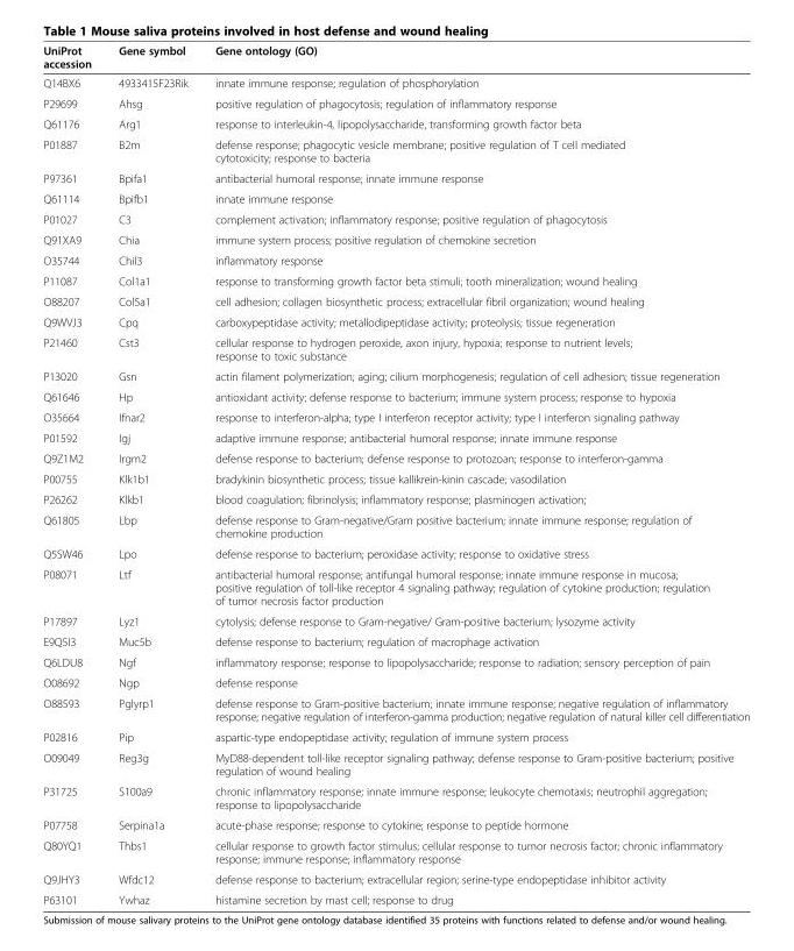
<table><thead><tr><td>UniProt accession</td><td>Gene symbol</td><td>Gene ontology (GO)</td></tr></thead><tbody><tr><td>Q14BX6</td><td>4933415F23Rik</td><td>innate immune response; regulation of phosphorylation</td></tr><tr><td>P29699</td><td>Ahsg</td><td>positive regulation of phagocytosis; regulation of inflammatory response</td></tr><tr><td>Q61176</td><td>Arg1</td><td>response to interleukin-4, lipopolysaccharide, transforming growth factor beta</td></tr><tr><td>P01887</td><td>B2m</td><td>defense response; phagocytic vesicle membrane; positive regulation of T cell mediated cytotoxicity; response to bacteria</td></tr><tr><td>P97361</td><td>Bpifa1</td><td>antibacterial humoral response; innate immune response</td></tr><tr><td>Q61114</td><td>Bpifb1</td><td>innate immune response</td></tr><tr><td>P01027</td><td>C3</td><td>complement activation; inflammatory response; positive regulation of phagocytosis</td></tr><tr><td>Q91XA9</td><td>Chia</td><td>immune system process; positive regulation of chemokine secretion</td></tr><tr><td>O35744</td><td>Chil3</td><td>inflammatory response</td></tr><tr><td>P11087</td><td>Col1a1</td><td>response to transforming growth factor beta stimuli; tooth mineralization; wound healing</td></tr><tr><td>O88207</td><td>Col5a1</td><td>cell adhesion; collagen biosynthetic process; extracellular fibril organization; wound healing</td></tr><tr><td>Q9WVJ3</td><td>Cpq</td><td>carboxypeptidase activity; metallodipeptidase activity; proteolysis; tissue regeneration</td></tr><tr><td>P21460</td><td>Cst3</td><td>cellular response to hydrogen peroxide, axon injury, hypoxia; response to nutrient levels; response to toxic substance</td></tr><tr><td>P13020</td><td>Gsn</td><td>actin filament polymerization; aging; cilium morphogenesis; regulation of cell adhesion; tissue regeneration</td></tr><tr><td>Q61646</td><td>Hp</td><td>antioxidant activity; defense response to bacterium; immune system process; response to hypoxia</td></tr><tr><td>O35664</td><td>Ifnar2</td><td>response to interferon-alpha; type I interferon receptor activity; type I interferon signaling pathway</td></tr><tr><td>P01592</td><td>Igj</td><td>adaptive immune response; antibacterial humoral response; innate immune response</td></tr><tr><td>Q9Z1M2</td><td>Irgm2</td><td>defense response to bacterium; defense response to protozoan; response to interferon-gamma</td></tr><tr><td>P00755</td><td>Klk1b1</td><td>bradykinin biosynthetic process; tissue kallikrein-kinin cascade; vasodilation</td></tr><tr><td>P26262</td><td>Klkb1</td><td>blood coagulation; fibrinolysis; inflammatory response; plasminogen activation;</td></tr><tr><td>Q61805</td><td>Lbp</td><td>defense response to Gram-negative/Gram positive bacterium; innate immune response; regulation of chemokine production</td></tr><tr><td>Q5SW46</td><td>Lpo</td><td>defense response to bacterium; peroxidase activity; response to oxidative stress</td></tr><tr><td>P08071</td><td>Ltf</td><td>antibacterial humoral response; antifungal humoral response; innate immune response in mucosa; positive regulation of toll-like receptor 4 signaling pathway; regulation of cytokine production; regulation of tumor necrosis factor production</td></tr><tr><td>P17897</td><td>Lyz1</td><td>cytolysis; defense response to Gram-negative/ Gram-positive bacterium; lysozyme activity</td></tr><tr><td>E9Q5I3</td><td>Muc5b</td><td>defense response to bacterium; regulation of macrophage activation</td></tr><tr><td>Q6LDU8</td><td>Ngf</td><td>inflammatory response; response to lipopolysaccharide; response to radiation; sensory perception of pain</td></tr><tr><td>O08692</td><td>Ngp</td><td>defense response</td></tr><tr><td>O88593</td><td>Pglyrp1</td><td>defense response to Gram-positive bacterium; innate immune response; negative regulation of inflammatory response; negative regulation of interferon-gamma production; negative regulation of natural killer cell differentiation</td></tr><tr><td>P02816</td><td>Pip</td><td>aspartic-type endopeptidase activity; regulation of immune system process</td></tr><tr><td>O09049</td><td>Reg3g</td><td>MyD88-dependent toll-like receptor signaling pathway; defense response to Gram-positive bacterium; positive regulation of wound healing</td></tr><tr><td>P31725</td><td>S100a9</td><td>chronic inflammatory response; innate immune response; leukocyte chemotaxis; neutrophil aggregation; response to lipopolysaccharide</td></tr><tr><td>P07758</td><td>Serpina1a</td><td>acute-phase response; response to cytokine; response to peptide hormone</td></tr><tr><td>Q80YQ1</td><td>Thbs1</td><td>cellular response to growth factor stimulus; cellular response to tumor necrosis factor; chronic inflammatory response; immune response; inflammatory response</td></tr><tr><td>Q9JHY3</td><td>Wfdc12</td><td>defense response to bacterium; extracellular region; serine-type endopeptidase inhibitor activity</td></tr><tr><td>P63101</td><td>Ywhaz</td><td>histamine secretion by mast cell; response to drug</td></tr></tbody></table>